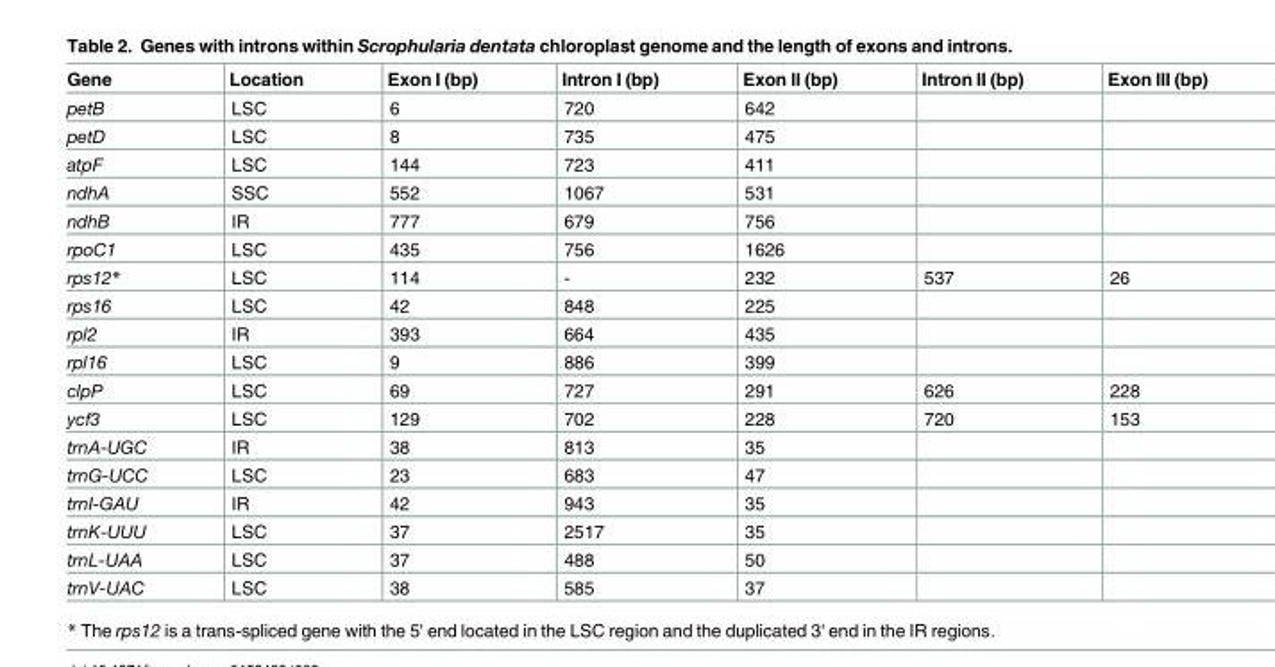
<table><thead><tr><td>Gene</td><td>Location</td><td>Exon I (bp)</td><td>Intron I (bp)</td><td>Exon II (bp)</td><td>Intron II (bp)</td><td>Exon III (bp)</td></tr></thead><tbody><tr><td>petB</td><td>LSC</td><td>6</td><td>720</td><td>642</td><td></td><td></td></tr><tr><td>petD</td><td>LSC</td><td>8</td><td>735</td><td>475</td><td></td><td></td></tr><tr><td>atpF</td><td>LSC</td><td>144</td><td>723</td><td>411</td><td></td><td></td></tr><tr><td>ndhA</td><td>SSC</td><td>552</td><td>1067</td><td>531</td><td></td><td></td></tr><tr><td>ndhB</td><td>IR</td><td>777</td><td>679</td><td>756</td><td></td><td></td></tr><tr><td>rpoC1</td><td>LSC</td><td>435</td><td>756</td><td>1626</td><td></td><td></td></tr><tr><td>rps12*</td><td>LSC</td><td>114</td><td>-</td><td>232</td><td>537</td><td>26</td></tr><tr><td>rps16</td><td>LSC</td><td>42</td><td>848</td><td>225</td><td></td><td></td></tr><tr><td>rpl2</td><td>IR</td><td>393</td><td>664</td><td>435</td><td></td><td></td></tr><tr><td>rpl16</td><td>LSC</td><td>9</td><td>886</td><td>399</td><td></td><td></td></tr><tr><td>clpP</td><td>LSC</td><td>69</td><td>727</td><td>291</td><td>626</td><td>228</td></tr><tr><td>ycf3</td><td>LSC</td><td>129</td><td>702</td><td>228</td><td>720</td><td>153</td></tr><tr><td>trnA-UGC</td><td>IR</td><td>38</td><td>813</td><td>35</td><td></td><td></td></tr><tr><td>trnG-UCC</td><td>LSC</td><td>23</td><td>683</td><td>47</td><td></td><td></td></tr><tr><td>trnI-GAU</td><td>IR</td><td>42</td><td>943</td><td>35</td><td></td><td></td></tr><tr><td>trnK-UUU</td><td>LSC</td><td>37</td><td>2517</td><td>35</td><td></td><td></td></tr><tr><td>trnL-UAA</td><td>LSC</td><td>37</td><td>488</td><td>50</td><td></td><td></td></tr><tr><td>trnV-UAC</td><td>LSC</td><td>38</td><td>585</td><td>37</td><td></td><td></td></tr></tbody></table>